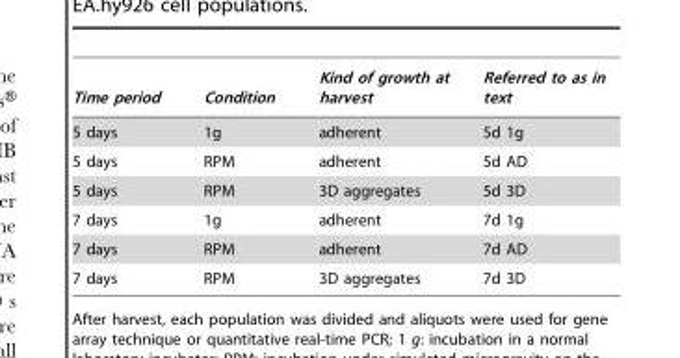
<table><thead><tr><td>Time period</td><td>Condition</td><td>Kind of growth at harvest</td><td>Referred to as in text</td></tr></thead><tbody><tr><td>5 days</td><td>1g</td><td>adherent</td><td>5d 1g</td></tr><tr><td>5 days</td><td>RPM</td><td>adherent</td><td>5d AD</td></tr><tr><td>5 days</td><td>RPM</td><td>3D aggregates</td><td>5d 3D</td></tr><tr><td>7 days</td><td>1g</td><td>adherent</td><td>7d 1g</td></tr><tr><td>7 days</td><td>RPM</td><td>adherent</td><td>7d AD</td></tr><tr><td>7 days</td><td>RPM</td><td>3D aggregates</td><td>7d 3D</td></tr></tbody></table>